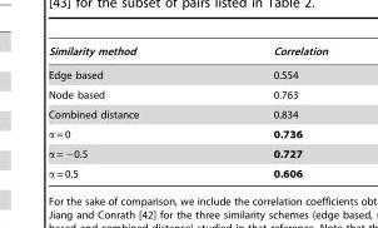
<table><thead><tr><td>Similarity method</td><td>Correlation</td></tr></thead><tbody><tr><td>Edge based</td><td>0.554</td></tr><tr><td>Node based</td><td>0.763</td></tr><tr><td>Combined distance</td><td>0.834</td></tr><tr><td>α = 0</td><td>0.736</td></tr><tr><td>α = −0.5</td><td>0.727</td></tr><tr><td>α = 0.5</td><td>0.606</td></tr></tbody></table>